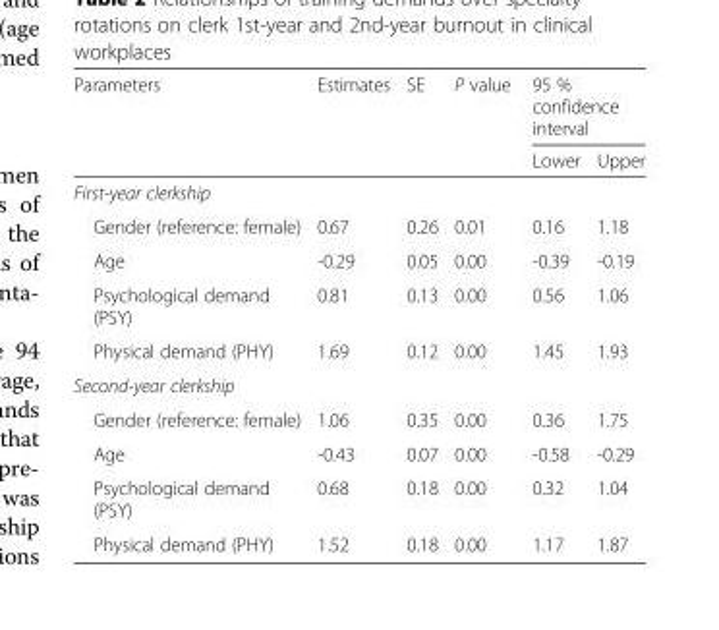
<table><thead><tr><td rowspan="2">Parameters</td><td rowspan="2">Estimates</td><td rowspan="2">SE</td><td rowspan="2">P value</td><td colspan="2">95 % confidence interval</td></tr><tr><td>Lower</td><td>Upper</td></tr></thead><tbody><tr><td colspan="6">First-year clerkship</td></tr><tr><td>Gender (reference: female)</td><td>0.67</td><td>0.26</td><td>0.01</td><td>0.16</td><td>1.18</td></tr><tr><td>Age</td><td>-0.29</td><td>0.05</td><td>0.00</td><td>-0.39</td><td>-0.19</td></tr><tr><td>Psychological demand (PSY)</td><td>0.81</td><td>0.13</td><td>0.00</td><td>0.56</td><td>1.06</td></tr><tr><td>Physical demand (PHY)</td><td>1.69</td><td>0.12</td><td>0.00</td><td>1.45</td><td>1.93</td></tr><tr><td colspan="6">Second-year clerkship</td></tr><tr><td>Gender (reference: female)</td><td>1.06</td><td>0.35</td><td>0.00</td><td>0.36</td><td>1.75</td></tr><tr><td>Age</td><td>-0.43</td><td>0.07</td><td>0.00</td><td>-0.58</td><td>-0.29</td></tr><tr><td>Psychological demand (PSY)</td><td>0.68</td><td>0.18</td><td>0.00</td><td>0.32</td><td>1.04</td></tr><tr><td>Physical demand (PHY)</td><td>1.52</td><td>0.18</td><td>0.00</td><td>1.17</td><td>1.87</td></tr></tbody></table>